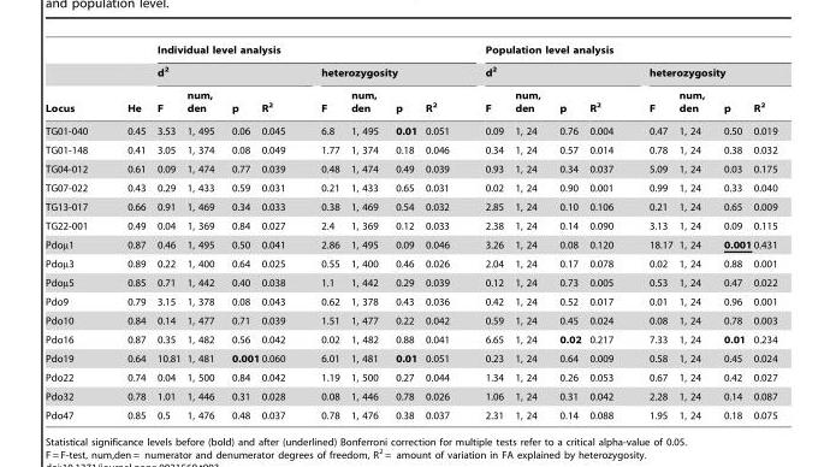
<table><thead><tr><td rowspan="3">Locus</td><td rowspan="3">He</td><td colspan="8">Individual level analysis</td><td colspan="8">Population level analysis</td></tr><tr><td colspan="4">d<sup>2</sup></td><td colspan="4">heterozygosity</td><td colspan="4">d<sup>2</sup></td><td colspan="4">heterozygosity</td></tr><tr><td>F</td><td>num, den</td><td>p</td><td>R<sup>2</sup></td><td>F</td><td>num, den</td><td>p</td><td>R<sup>2</sup></td><td>F</td><td>num, den</td><td>p</td><td>R<sup>2</sup></td><td>F</td><td>num, den</td><td>p</td><td>R<sup>2</sup></td></tr></thead><tbody><tr><td>TG01-040</td><td>0.45</td><td>3.53</td><td>1, 495</td><td>0.06</td><td>0.045</td><td>6.8</td><td>1, 495</td><td>0.01</td><td>0.051</td><td>0.09</td><td>1, 24</td><td>0.76</td><td>0.004</td><td>0.47</td><td>1, 24</td><td>0.50</td><td>0.019</td></tr><tr><td>TG01-148</td><td>0.41</td><td>3.05</td><td>1, 374</td><td>0.08</td><td>0.049</td><td>1.77</td><td>1, 374</td><td>0.18</td><td>0.046</td><td>0.34</td><td>1, 24</td><td>0.57</td><td>0.014</td><td>0.78</td><td>1, 24</td><td>0.38</td><td>0.032</td></tr><tr><td>TG04-012</td><td>0.61</td><td>0.09</td><td>1, 474</td><td>0.77</td><td>0.039</td><td>0.48</td><td>1, 474</td><td>0.49</td><td>0.039</td><td>0.93</td><td>1, 24</td><td>0.34</td><td>0.037</td><td>5.09</td><td>1, 24</td><td>0.03</td><td>0.175</td></tr><tr><td>TG07-022</td><td>0.43</td><td>0.29</td><td>1, 433</td><td>0.59</td><td>0.031</td><td>0.21</td><td>1, 433</td><td>0.65</td><td>0.031</td><td>0.02</td><td>1, 24</td><td>0.90</td><td>0.001</td><td>0.99</td><td>1, 24</td><td>0.33</td><td>0.040</td></tr><tr><td>TG13-017</td><td>0.66</td><td>0.91</td><td>1, 469</td><td>0.34</td><td>0.033</td><td>0.38</td><td>1, 469</td><td>0.54</td><td>0.032</td><td>2.85</td><td>1, 24</td><td>0.10</td><td>0.106</td><td>0.21</td><td>1, 24</td><td>0.65</td><td>0.009</td></tr><tr><td>TG22-001</td><td>0.49</td><td>0.04</td><td>1, 369</td><td>0.84</td><td>0.027</td><td>2.4</td><td>1, 369</td><td>0.12</td><td>0.033</td><td>2.38</td><td>1, 24</td><td>0.14</td><td>0.090</td><td>3.13</td><td>1, 24</td><td>0.09</td><td>0.115</td></tr><tr><td>Pdoµ1</td><td>0.87</td><td>0.46</td><td>1, 495</td><td>0.50</td><td>0.041</td><td>2.86</td><td>1, 495</td><td>0.09</td><td>0.046</td><td>3.26</td><td>1, 24</td><td>0.08</td><td>0.120</td><td>18.17</td><td>1, 24</td><td>0.001</td><td>0.431</td></tr><tr><td>Pdoµ3</td><td>0.89</td><td>0.22</td><td>1, 400</td><td>0.64</td><td>0.025</td><td>0.55</td><td>1, 400</td><td>0.46</td><td>0.026</td><td>2.04</td><td>1, 24</td><td>0.17</td><td>0.078</td><td>0.02</td><td>1, 24</td><td>0.88</td><td>0.001</td></tr><tr><td>Pdoµ5</td><td>0.85</td><td>0.71</td><td>1, 442</td><td>0.40</td><td>0.038</td><td>1.1</td><td>1, 442</td><td>0.29</td><td>0.039</td><td>0.12</td><td>1, 24</td><td>0.73</td><td>0.005</td><td>0.53</td><td>1, 24</td><td>0.47</td><td>0.022</td></tr><tr><td>Pdo9</td><td>0.79</td><td>3.15</td><td>1, 378</td><td>0.08</td><td>0.043</td><td>0.62</td><td>1, 378</td><td>0.43</td><td>0.036</td><td>0.42</td><td>1, 24</td><td>0.52</td><td>0.017</td><td>0.01</td><td>1, 24</td><td>0.96</td><td>0.001</td></tr><tr><td>Pdo10</td><td>0.84</td><td>0.14</td><td>1, 477</td><td>0.71</td><td>0.039</td><td>1.51</td><td>1, 477</td><td>0.22</td><td>0.042</td><td>0.59</td><td>1, 24</td><td>0.45</td><td>0.024</td><td>0.08</td><td>1, 24</td><td>0.78</td><td>0.003</td></tr><tr><td>Pdo16</td><td>0.87</td><td>0.35</td><td>1, 482</td><td>0.56</td><td>0.042</td><td>0.02</td><td>1, 482</td><td>0.88</td><td>0.041</td><td>6.65</td><td>1, 24</td><td>0.02</td><td>0.217</td><td>7.33</td><td>1, 24</td><td>0.01</td><td>0.234</td></tr><tr><td>Pdo19</td><td>0.64</td><td>10.81</td><td>1, 481</td><td>0.001</td><td>0.060</td><td>6.01</td><td>1, 481</td><td>0.01</td><td>0.051</td><td>0.23</td><td>1, 24</td><td>0.64</td><td>0.009</td><td>0.58</td><td>1, 24</td><td>0.45</td><td>0.024</td></tr><tr><td>Pdo22</td><td>0.74</td><td>0.04</td><td>1, 500</td><td>0.84</td><td>0.042</td><td>1.19</td><td>1, 500</td><td>0.27</td><td>0.044</td><td>1.34</td><td>1, 24</td><td>0.26</td><td>0.053</td><td>0.67</td><td>1, 24</td><td>0.42</td><td>0.027</td></tr><tr><td>Pdo32</td><td>0.78</td><td>1.01</td><td>1, 446</td><td>0.31</td><td>0.028</td><td>0.08</td><td>1, 446</td><td>0.78</td><td>0.026</td><td>1.06</td><td>1, 24</td><td>0.31</td><td>0.042</td><td>2.28</td><td>1, 24</td><td>0.14</td><td>0.087</td></tr><tr><td>Pdo47</td><td>0.85</td><td>0.5</td><td>1, 476</td><td>0.48</td><td>0.037</td><td>0.78</td><td>1, 476</td><td>0.38</td><td>0.037</td><td>2.31</td><td>1, 24</td><td>0.14</td><td>0.088</td><td>1.95</td><td>1, 24</td><td>0.18</td><td>0.075</td></tr></tbody></table>